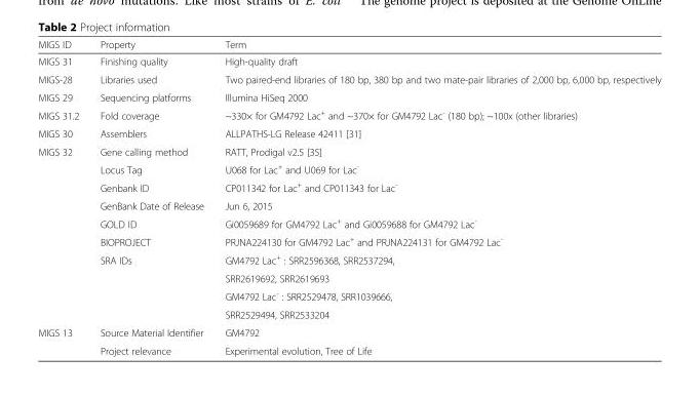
<table><thead><tr><td>MIGS ID</td><td>Property</td><td>Term</td></tr></thead><tbody><tr><td>MIGS 31</td><td>Finishing quality</td><td>High-quality draft</td></tr><tr><td>MIGS-28</td><td>Libraries used</td><td>Two paired-end libraries of 180 bp, 380 bp and two mate-pair libraries of 2,000 bp, 6,000 bp, respectively</td></tr><tr><td>MIGS 29</td><td>Sequencing platforms</td><td>Illumina HiSeq 2000</td></tr><tr><td>MIGS 31.2</td><td>Fold coverage</td><td>~330× for GM4792 Lac<sup>+</sup> and ~370× for GM4792 Lac<sup>-</sup> (180 bp); ~100x (other libraries)</td></tr><tr><td>MIGS 30</td><td>Assemblers</td><td>ALLPATHS-LG Release 42411 [31]</td></tr><tr><td rowspan="10">MIGS 32</td><td>Gene calling method</td><td>RATT, Prodigal v2.5 [35]</td></tr><tr><td>Locus Tag</td><td>U068 for Lac<sup>+</sup> and U069 for Lac<sup>-</sup></td></tr><tr><td>Genbank ID</td><td>CP011342 for Lac<sup>+</sup> and CP011343 for Lac<sup>-</sup></td></tr><tr><td>GenBank Date of Release</td><td>Jun 6, 2015</td></tr><tr><td>GOLD ID</td><td>Gi0059689 for GM4792 Lac<sup>+</sup> and Gi0059688 for GM4792 Lac<sup>-</sup></td></tr><tr><td>BIOPROJECT</td><td>PRJNA224130 for GM4792 Lac<sup>+</sup> and PRJNA224131 for GM4792 Lac<sup>-</sup></td></tr><tr><td rowspan="4">SRA IDs</td><td>GM4792 Lac<sup>+</sup> : SRR2596368, SRR2537294,</td></tr><tr><td>SRR2619692, SRR2619693</td></tr><tr><td>GM4792 Lac<sup>-</sup> : SRR2529478, SRR1039666,</td></tr><tr><td>SRR2529494, SRR2533204</td></tr><tr><td rowspan="2">MIGS 13</td><td>Source Material Identifier</td><td>GM4792</td></tr><tr><td>Project relevance</td><td>Experimental evolution, Tree of Life</td></tr></tbody></table>